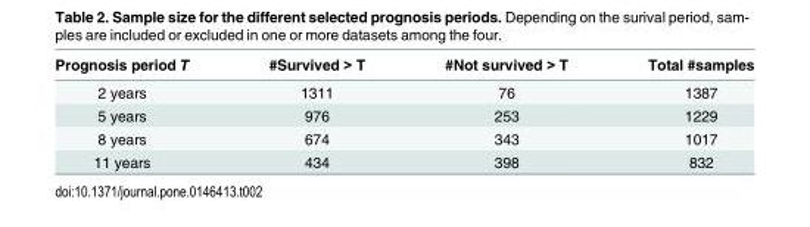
<table><thead><tr><td>Prognosis period T</td><td>#Survived &gt; T</td><td>#Not survived &gt; T</td><td>Total #samples</td></tr></thead><tbody><tr><td>2 years</td><td>1311</td><td>76</td><td>1387</td></tr><tr><td>5 years</td><td>976</td><td>253</td><td>1229</td></tr><tr><td>8 years</td><td>674</td><td>343</td><td>1017</td></tr><tr><td>11 years</td><td>434</td><td>398</td><td>832</td></tr></tbody></table>